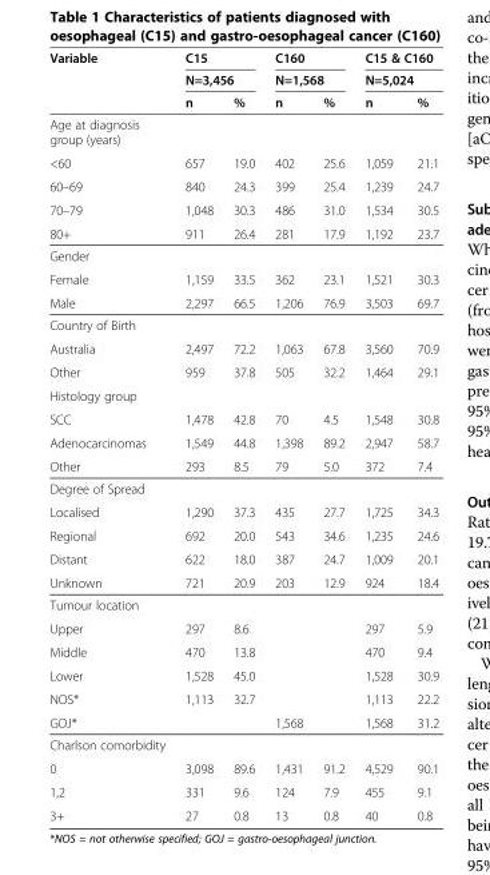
<table><thead><tr><td rowspan="3">Variable</td><td rowspan="2" colspan="2">C15 N=3,456</td><td rowspan="2" colspan="2">C160 N=1,568</td><td rowspan="2" colspan="2">C15 &amp; C160 N=5,024</td></tr><tr></tr><tr><td>n</td><td>%</td><td>n</td><td>%</td><td>n</td><td>%</td></tr></thead><tbody><tr><td colspan="7">Age at diagnosis group (years)</td></tr><tr><td>&lt;60</td><td>657</td><td>19.0</td><td>402</td><td>25.6</td><td>1,059</td><td>21.1</td></tr><tr><td>60–69</td><td>840</td><td>24.3</td><td>399</td><td>25.4</td><td>1,239</td><td>24.7</td></tr><tr><td>70–79</td><td>1,048</td><td>30.3</td><td>486</td><td>31.0</td><td>1,534</td><td>30.5</td></tr><tr><td>80+</td><td>911</td><td>26.4</td><td>281</td><td>17.9</td><td>1,192</td><td>23.7</td></tr><tr><td colspan="7">Gender</td></tr><tr><td>Female</td><td>1,159</td><td>33.5</td><td>362</td><td>23.1</td><td>1,521</td><td>30.3</td></tr><tr><td>Male</td><td>2,297</td><td>66.5</td><td>1,206</td><td>76.9</td><td>3,503</td><td>69.7</td></tr><tr><td colspan="7">Country of Birth</td></tr><tr><td>Australia</td><td>2,497</td><td>72.2</td><td>1,063</td><td>67.8</td><td>3,560</td><td>70.9</td></tr><tr><td>Other</td><td>959</td><td>37.8</td><td>505</td><td>32.2</td><td>1,464</td><td>29.1</td></tr><tr><td colspan="7">Histology group</td></tr><tr><td>SCC</td><td>1,478</td><td>42.8</td><td>70</td><td>4.5</td><td>1,548</td><td>30.8</td></tr><tr><td>Adenocarcinomas</td><td>1,549</td><td>44.8</td><td>1,398</td><td>89.2</td><td>2,947</td><td>58.7</td></tr><tr><td>Other</td><td>293</td><td>8.5</td><td>79</td><td>5.0</td><td>372</td><td>7.4</td></tr><tr><td colspan="7">Degree of Spread</td></tr><tr><td>Localised</td><td>1,290</td><td>37.3</td><td>435</td><td>27.7</td><td>1,725</td><td>34.3</td></tr><tr><td>Regional</td><td>692</td><td>20.0</td><td>543</td><td>34.6</td><td>1,235</td><td>24.6</td></tr><tr><td>Distant</td><td>622</td><td>18.0</td><td>387</td><td>24.7</td><td>1,009</td><td>20.1</td></tr><tr><td>Unknown</td><td>721</td><td>20.9</td><td>203</td><td>12.9</td><td>924</td><td>18.4</td></tr><tr><td colspan="7">Tumour location</td></tr><tr><td>Upper</td><td>297</td><td>8.6</td><td></td><td></td><td>297</td><td>5.9</td></tr><tr><td>Middle</td><td>470</td><td>13.8</td><td></td><td></td><td>470</td><td>9.4</td></tr><tr><td>Lower</td><td>1,528</td><td>45.0</td><td></td><td></td><td>1,528</td><td>30.9</td></tr><tr><td>NOS*</td><td>1,113</td><td>32.7</td><td></td><td></td><td>1,113</td><td>22.2</td></tr><tr><td>GOJ*</td><td></td><td></td><td>1,568</td><td></td><td>1,568</td><td>31.2</td></tr><tr><td colspan="7">Charlson comorbidity</td></tr><tr><td>0</td><td>3,098</td><td>89.6</td><td>1,431</td><td>91.2</td><td>4,529</td><td>90.1</td></tr><tr><td>1,2</td><td>331</td><td>9.6</td><td>124</td><td>7.9</td><td>455</td><td>9.1</td></tr><tr><td>3+</td><td>27</td><td>0.8</td><td>13</td><td>0.8</td><td>40</td><td>0.8</td></tr></tbody></table>